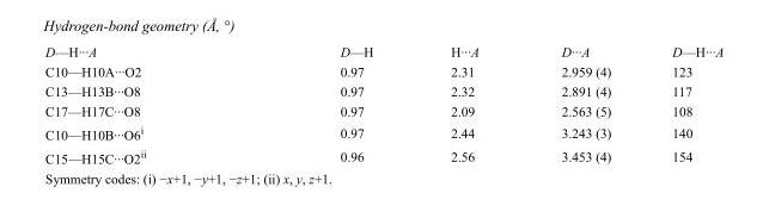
<table><tbody><tr><td>D—H···A</td><td>D—H</td><td>H···A</td><td>D···A</td><td>D—H···A</td></tr><tr><td>C10—H10A···O2</td><td>0.97</td><td>2.31</td><td>2.959 (4)</td><td>123</td></tr><tr><td>C13—H13B···O8</td><td>0.97</td><td>2.32</td><td>2.891 (4)</td><td>117</td></tr><tr><td>C17—H17C···O8</td><td>0.97</td><td>2.09</td><td>2.563 (5)</td><td>108</td></tr><tr><td>C10—H10B···O6<sup>i</sup></td><td>0.97</td><td>2.44</td><td>3.243 (3)</td><td>140</td></tr><tr><td>C15—H15C···O2<sup>ii</sup></td><td>0.96</td><td>2.56</td><td>3.453 (4)</td><td>154</td></tr></tbody></table>